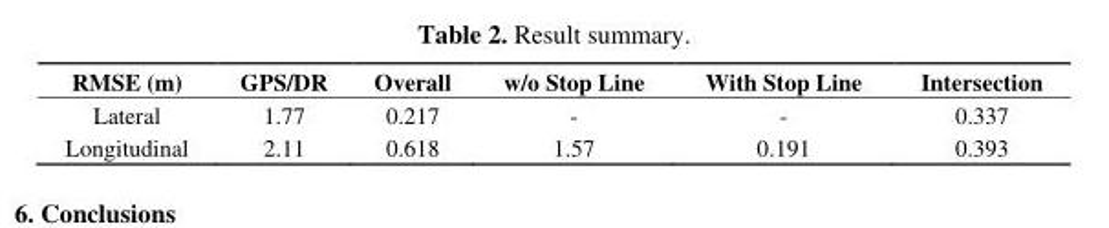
<table><thead><tr><td>RMSE (m)</td><td>GPS/DR</td><td>Overall</td><td>w/o Stop Line</td><td>With Stop Line</td><td>Intersection</td></tr></thead><tbody><tr><td>Lateral</td><td>1.77</td><td>0.217</td><td>-</td><td>-</td><td>0.337</td></tr><tr><td>Longitudinal</td><td>2.11</td><td>0.618</td><td>1.57</td><td>0.191</td><td>0.393</td></tr></tbody></table>